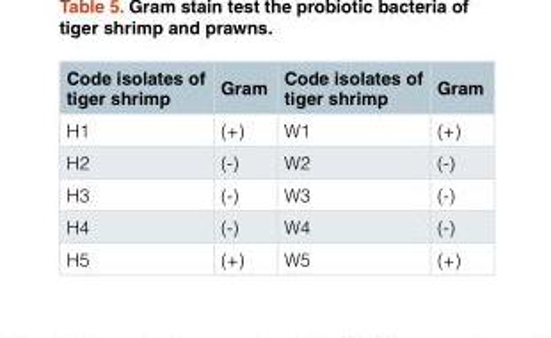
<table><thead><tr><td>Code isolates of tiger shrimp</td><td>Gram</td><td>Code isolates of tiger shrimp</td><td>Gram</td></tr></thead><tbody><tr><td>H1</td><td>(+)</td><td>W1</td><td>(+)</td></tr><tr><td>H2</td><td>(-)</td><td>W2</td><td>(-)</td></tr><tr><td>H3</td><td>(-)</td><td>W3</td><td>(-)</td></tr><tr><td>H4</td><td>(-)</td><td>W4</td><td>(-)</td></tr><tr><td>H5</td><td>(+)</td><td>W5</td><td>(+)</td></tr></tbody></table>